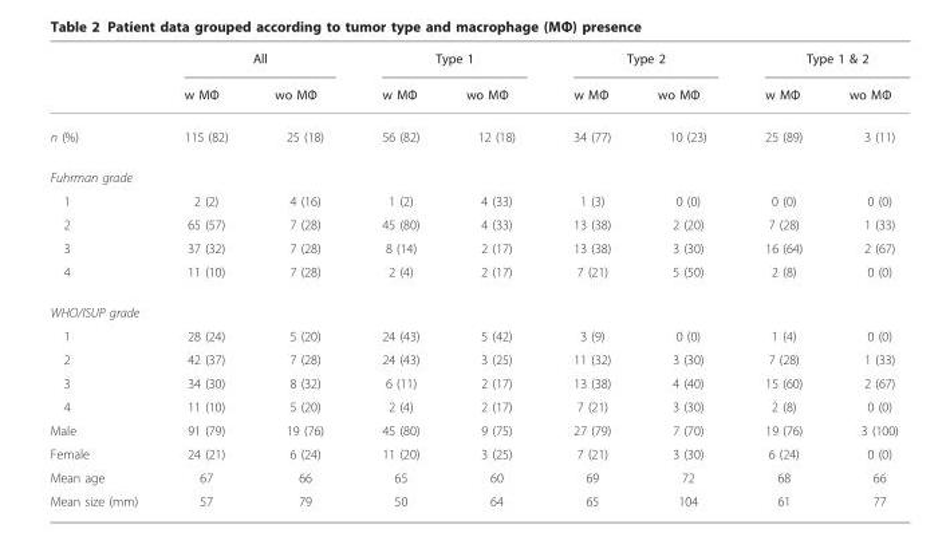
<table><thead><tr><td rowspan="2"></td><td colspan="2">All</td><td colspan="2">Type 1</td><td colspan="2">Type 2</td><td colspan="2">Type 1 &amp; 2</td></tr><tr><td>w MΦ</td><td>wo MΦ</td><td>w MΦ</td><td>wo MΦ</td><td>w MΦ</td><td>wo MΦ</td><td>w MΦ</td><td>wo MΦ</td></tr></thead><tbody><tr><td>n (%)</td><td>115 (82)</td><td>25 (18)</td><td>56 (82)</td><td>12 (18)</td><td>34 (77)</td><td>10 (23)</td><td>25 (89)</td><td>3 (11)</td></tr><tr><td colspan="9">Fuhrman grade</td></tr><tr><td>1</td><td>2 (2)</td><td>4 (16)</td><td>1 (2)</td><td>4 (33)</td><td>1 (3)</td><td>0 (0)</td><td>0 (0)</td><td>0 (0)</td></tr><tr><td>2</td><td>65 (57)</td><td>7 (28)</td><td>45 (80)</td><td>4 (33)</td><td>13 (38)</td><td>2 (20)</td><td>7 (28)</td><td>1 (33)</td></tr><tr><td>3</td><td>37 (32)</td><td>7 (28)</td><td>8 (14)</td><td>2 (17)</td><td>13 (38)</td><td>3 (30)</td><td>16 (64)</td><td>2 (67)</td></tr><tr><td>4</td><td>11 (10)</td><td>7 (28)</td><td>2 (4)</td><td>2 (17)</td><td>7 (21)</td><td>5 (50)</td><td>2 (8)</td><td>0 (0)</td></tr><tr><td colspan="9">WHO/ISUP grade</td></tr><tr><td>1</td><td>28 (24)</td><td>5 (20)</td><td>24 (43)</td><td>5 (42)</td><td>3 (9)</td><td>0 (0)</td><td>1 (4)</td><td>0 (0)</td></tr><tr><td>2</td><td>42 (37)</td><td>7 (28)</td><td>24 (43)</td><td>3 (25)</td><td>11 (32)</td><td>3 (30)</td><td>7 (28)</td><td>1 (33)</td></tr><tr><td>3</td><td>34 (30)</td><td>8 (32)</td><td>6 (11)</td><td>2 (17)</td><td>13 (38)</td><td>4 (40)</td><td>15 (60)</td><td>2 (67)</td></tr><tr><td>4</td><td>11 (10)</td><td>5 (20)</td><td>2 (4)</td><td>2 (17)</td><td>7 (21)</td><td>3 (30)</td><td>2 (8)</td><td>0 (0)</td></tr><tr><td>Male</td><td>91 (79)</td><td>19 (76)</td><td>45 (80)</td><td>9 (75)</td><td>27 (79)</td><td>7 (70)</td><td>19 (76)</td><td>3 (100)</td></tr><tr><td>Female</td><td>24 (21)</td><td>6 (24)</td><td>11 (20)</td><td>3 (25)</td><td>7 (21)</td><td>3 (30)</td><td>6 (24)</td><td>0 (0)</td></tr><tr><td>Mean age</td><td>67</td><td>66</td><td>65</td><td>60</td><td>69</td><td>72</td><td>68</td><td>66</td></tr><tr><td>Mean size (mm)</td><td>57</td><td>79</td><td>50</td><td>64</td><td>65</td><td>104</td><td>61</td><td>77</td></tr></tbody></table>